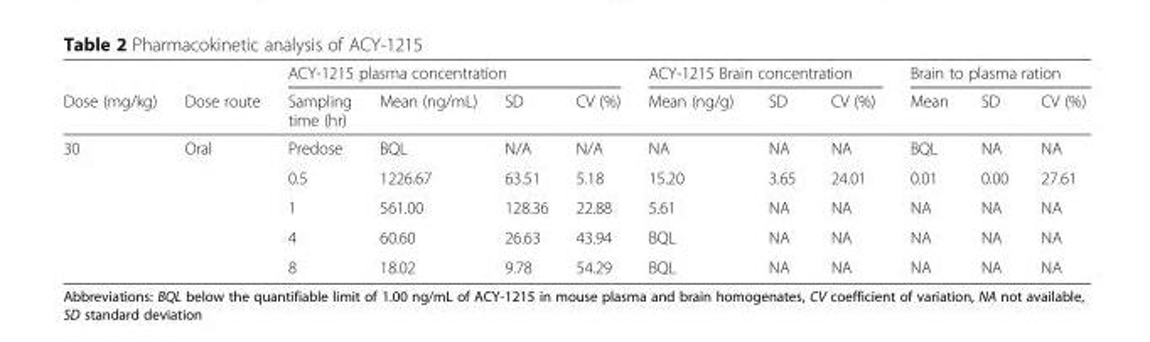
<table><thead><tr><td rowspan="2">Dose (mg/kg)</td><td rowspan="2">Dose route</td><td colspan="4">ACY-1215 plasma concentration</td><td colspan="3">ACY-1215 Brain concentration</td><td colspan="3">Brain to plasma ration</td></tr><tr><td>Sampling time (hr)</td><td>Mean (ng/mL)</td><td>SD</td><td>CV (%)</td><td>Mean (ng/g)</td><td>SD</td><td>CV (%)</td><td>Mean</td><td>SD</td><td>CV (%)</td></tr></thead><tbody><tr><td rowspan="5">30</td><td rowspan="5">Oral</td><td>Predose</td><td>BQL</td><td>N/A</td><td>N/A</td><td>NA</td><td>NA</td><td>NA</td><td>BQL</td><td>NA</td><td>NA</td></tr><tr><td>0.5</td><td>1226.67</td><td>63.51</td><td>5.18</td><td>15.20</td><td>3.65</td><td>24.01</td><td>0.01</td><td>0.00</td><td>27.61</td></tr><tr><td>1</td><td>561.00</td><td>128.36</td><td>22.88</td><td>5.61</td><td>NA</td><td>NA</td><td>NA</td><td>NA</td><td>NA</td></tr><tr><td>4</td><td>60.60</td><td>26.63</td><td>43.94</td><td>BQL</td><td>NA</td><td>NA</td><td>NA</td><td>NA</td><td>NA</td></tr><tr><td>8</td><td>18.02</td><td>9.78</td><td>54.29</td><td>BQL</td><td>NA</td><td>NA</td><td>NA</td><td>NA</td><td>NA</td></tr></tbody></table>